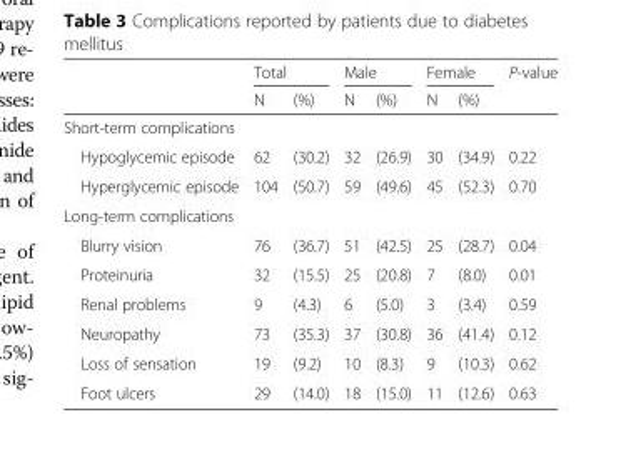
<table><thead><tr><td rowspan="2"></td><td colspan="2">Total</td><td colspan="2">Male</td><td colspan="2">Female</td><td rowspan="2">P-value</td></tr><tr><td>N</td><td>(%)</td><td>N</td><td>(%)</td><td>N</td><td>(%)</td></tr></thead><tbody><tr><td colspan="8">Short-term complications</td></tr><tr><td>Hypoglycemic episode</td><td>62</td><td>(30.2)</td><td>32</td><td>(26.9)</td><td>30</td><td>(34.9)</td><td>0.22</td></tr><tr><td>Hyperglycemic episode</td><td>104</td><td>(50.7)</td><td>59</td><td>(49.6)</td><td>45</td><td>(52.3)</td><td>0.70</td></tr><tr><td colspan="8">Long-term complications</td></tr><tr><td>Blurry vision</td><td>76</td><td>(36.7)</td><td>51</td><td>(42.5)</td><td>25</td><td>(28.7)</td><td>0.04</td></tr><tr><td>Proteinuria</td><td>32</td><td>(15.5)</td><td>25</td><td>(20.8)</td><td>7</td><td>(8.0)</td><td>0.01</td></tr><tr><td>Renal problems</td><td>9</td><td>(4.3)</td><td>6</td><td>(5.0)</td><td>3</td><td>(3.4)</td><td>0.59</td></tr><tr><td>Neuropathy</td><td>73</td><td>(35.3)</td><td>37</td><td>(30.8)</td><td>36</td><td>(41.4)</td><td>0.12</td></tr><tr><td>Loss of sensation</td><td>19</td><td>(9.2)</td><td>10</td><td>(8.3)</td><td>9</td><td>(10.3)</td><td>0.62</td></tr><tr><td>Foot ulcers</td><td>29</td><td>(14.0)</td><td>18</td><td>(15.0)</td><td>11</td><td>(12.6)</td><td>0.63</td></tr></tbody></table>